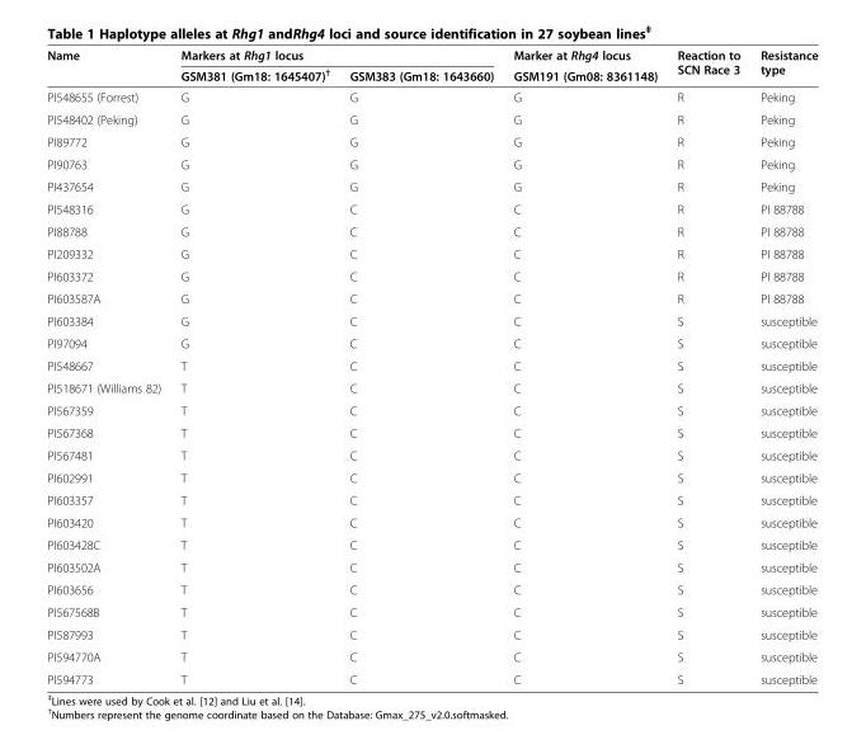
<table><thead><tr><td rowspan="2">Name</td><td colspan="2">Markers at Rhg1 locus</td><td rowspan="2">Marker at Rhg4 locus GSM191 (Gm08: 8361148)</td><td rowspan="2">Reaction to SCN Race 3</td><td rowspan="2">Resistance type</td></tr><tr><td>GSM381 (Gm18: 1645407)<sup>†</sup></td><td>GSM383 (Gm18: 1643660)</td></tr></thead><tbody><tr><td>PI548655 (Forrest)</td><td>G</td><td>G</td><td>G</td><td>R</td><td>Peking</td></tr><tr><td>PI548402 (Peking)</td><td>G</td><td>G</td><td>G</td><td>R</td><td>Peking</td></tr><tr><td>PI89772</td><td>G</td><td>G</td><td>G</td><td>R</td><td>Peking</td></tr><tr><td>PI90763</td><td>G</td><td>G</td><td>G</td><td>R</td><td>Peking</td></tr><tr><td>PI437654</td><td>G</td><td>G</td><td>G</td><td>R</td><td>Peking</td></tr><tr><td>PI548316</td><td>G</td><td>C</td><td>C</td><td>R</td><td>PI 88788</td></tr><tr><td>PI88788</td><td>G</td><td>C</td><td>C</td><td>R</td><td>PI 88788</td></tr><tr><td>PI209332</td><td>G</td><td>C</td><td>C</td><td>R</td><td>PI 88788</td></tr><tr><td>PI603372</td><td>G</td><td>C</td><td>C</td><td>R</td><td>PI 88788</td></tr><tr><td>PI603587A</td><td>G</td><td>C</td><td>C</td><td>R</td><td>PI 88788</td></tr><tr><td>PI603384</td><td>G</td><td>C</td><td>C</td><td>S</td><td>susceptible</td></tr><tr><td>PI97094</td><td>G</td><td>C</td><td>C</td><td>S</td><td>susceptible</td></tr><tr><td>PI548667</td><td>T</td><td>C</td><td>C</td><td>S</td><td>susceptible</td></tr><tr><td>PI518671 (Williams 82)</td><td>T</td><td>C</td><td>C</td><td>S</td><td>susceptible</td></tr><tr><td>PI567359</td><td>T</td><td>C</td><td>C</td><td>S</td><td>susceptible</td></tr><tr><td>PI567368</td><td>T</td><td>C</td><td>C</td><td>S</td><td>susceptible</td></tr><tr><td>PI567481</td><td>T</td><td>C</td><td>C</td><td>S</td><td>susceptible</td></tr><tr><td>PI602991</td><td>T</td><td>C</td><td>C</td><td>S</td><td>susceptible</td></tr><tr><td>PI603357</td><td>T</td><td>C</td><td>C</td><td>S</td><td>susceptible</td></tr><tr><td>PI603420</td><td>T</td><td>C</td><td>C</td><td>S</td><td>susceptible</td></tr><tr><td>PI603428C</td><td>T</td><td>C</td><td>C</td><td>S</td><td>susceptible</td></tr><tr><td>PI603502A</td><td>T</td><td>C</td><td>C</td><td>S</td><td>susceptible</td></tr><tr><td>PI603656</td><td>T</td><td>C</td><td>C</td><td>S</td><td>susceptible</td></tr><tr><td>PI567568B</td><td>T</td><td>C</td><td>C</td><td>S</td><td>susceptible</td></tr><tr><td>PI587993</td><td>T</td><td>C</td><td>C</td><td>S</td><td>susceptible</td></tr><tr><td>PI594770A</td><td>T</td><td>C</td><td>C</td><td>S</td><td>susceptible</td></tr><tr><td>PI594773</td><td>T</td><td>C</td><td>C</td><td>S</td><td>susceptible</td></tr></tbody></table>